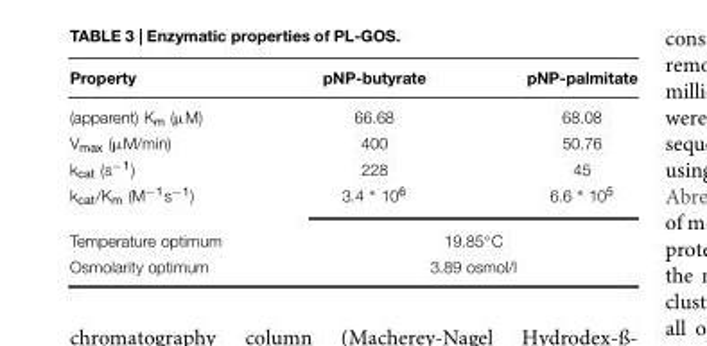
<table><thead><tr><td>Property</td><td>pNP-butyrate</td><td>pNP-palmitate</td></tr></thead><tbody><tr><td>(apparent) K<sub>m</sub> (μM)</td><td>66.68</td><td>68.08</td></tr><tr><td>V<sub>max</sub> (μM/min)</td><td>400</td><td>50.76</td></tr><tr><td>k<sub>cat</sub> (s<sup>−1</sup>)</td><td>228</td><td>45</td></tr><tr><td>k<sub>cat</sub>/K<sub>m</sub> (M<sup>−1</sup>s<sup>−1</sup>)</td><td>3.4 ∗ 106</td><td>6.6 ∗ 105</td></tr><tr><td>Temperature optimum</td><td colspan="2">19.85◦C</td></tr><tr><td>Osmolarity optimum</td><td colspan="2">3.89 osmol/l</td></tr></tbody></table>